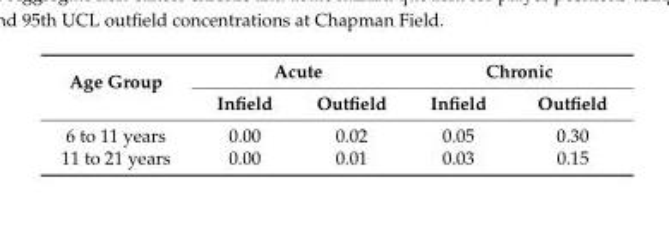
<table><thead><tr><td rowspan="2">Age Group</td><td colspan="2">Acute</td><td colspan="2">Chronic</td></tr><tr><td>Infield</td><td>Outfield</td><td>Infield</td><td>Outfield</td></tr></thead><tbody><tr><td>6 to 11 years</td><td>0.00</td><td>0.02</td><td>0.05</td><td>0.30</td></tr><tr><td>11 to 21 years</td><td>0.00</td><td>0.01</td><td>0.03</td><td>0.15</td></tr></tbody></table>